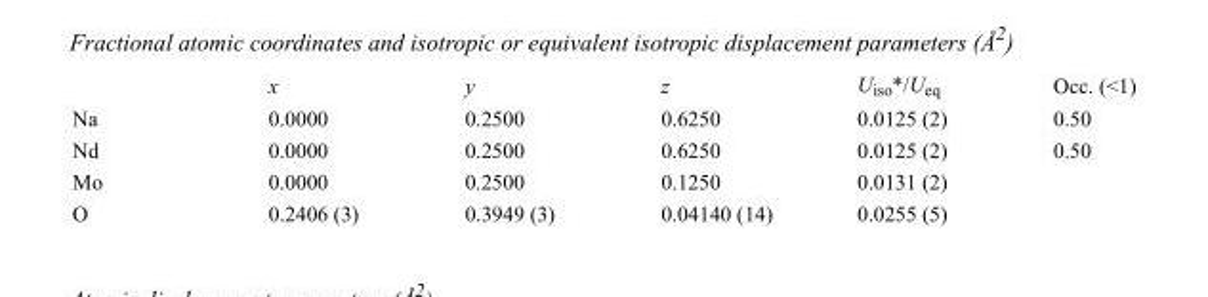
<table><thead><tr><td></td><td>x</td><td>y</td><td>z</td><td>U<sub>iso</sub>*/U<sub>eq</sub></td><td>Occ. (&lt;1)</td></tr></thead><tbody><tr><td>Na</td><td>0.0000</td><td>0.2500</td><td>0.6250</td><td>0.0125 (2)</td><td>0.50</td></tr><tr><td>Nd</td><td>0.0000</td><td>0.2500</td><td>0.6250</td><td>0.0125 (2)</td><td>0.50</td></tr><tr><td>Mo</td><td>0.0000</td><td>0.2500</td><td>0.1250</td><td>0.0131 (2)</td><td></td></tr><tr><td>O</td><td>0.2406 (3)</td><td>0.3949 (3)</td><td>0.04140 (14)</td><td>0.0255 (5)</td><td></td></tr></tbody></table>